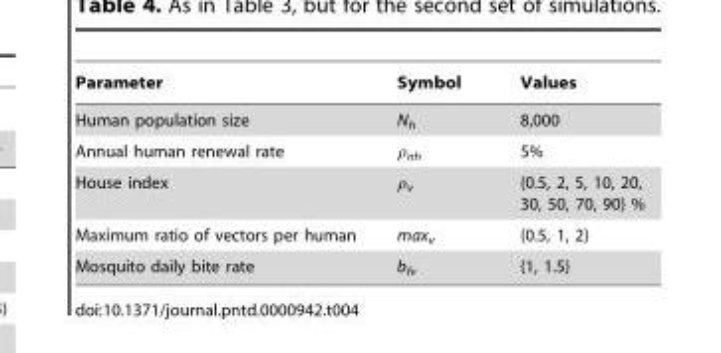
<table><thead><tr><td>Parameter</td><td>Symbol</td><td>Values</td></tr></thead><tbody><tr><td>Human population size</td><td>N<sub>h</sub></td><td>8,000</td></tr><tr><td>Annual human renewal rate</td><td>ρ<sub>nh</sub></td><td>5%</td></tr><tr><td>House index</td><td>ρ<sub>v</sub></td><td>{0.5, 2, 5, 10, 20, 30, 50, 70, 90} %</td></tr><tr><td>Maximum ratio of vectors per human</td><td>max<sub>v</sub></td><td>{0.5, 1, 2}</td></tr><tr><td>Mosquito daily bite rate</td><td>b<sub>fv</sub></td><td>{1, 1.5}</td></tr></tbody></table>